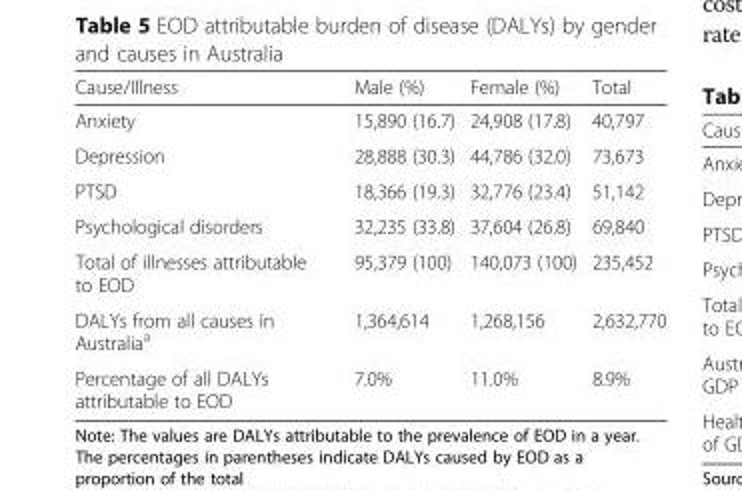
<table><thead><tr><td>Cause/Illness</td><td>Male (%)</td><td>Female (%)</td><td>Total</td></tr></thead><tbody><tr><td>Anxiety</td><td>15,890 (16.7)</td><td>24,908 (17.8)</td><td>40,797</td></tr><tr><td>Depression</td><td>28,888 (30.3)</td><td>44,786 (32.0)</td><td>73,673</td></tr><tr><td>PTSD</td><td>18,366 (19.3)</td><td>32,776 (23.4)</td><td>51,142</td></tr><tr><td>Psychological disorders</td><td>32,235 (33.8)</td><td>37,604 (26.8)</td><td>69,840</td></tr><tr><td>Total of illnesses attributable to EOD</td><td>95,379 (100)</td><td>140,073 (100)</td><td>235,452</td></tr><tr><td>DALYs from all causes in Australia<sup>a</sup></td><td>1,364,614</td><td>1,268,156</td><td>2,632,770</td></tr><tr><td>Percentage of all DALYs attributable to EOD</td><td>7.0%</td><td>11.0%</td><td>8.9%</td></tr></tbody></table>